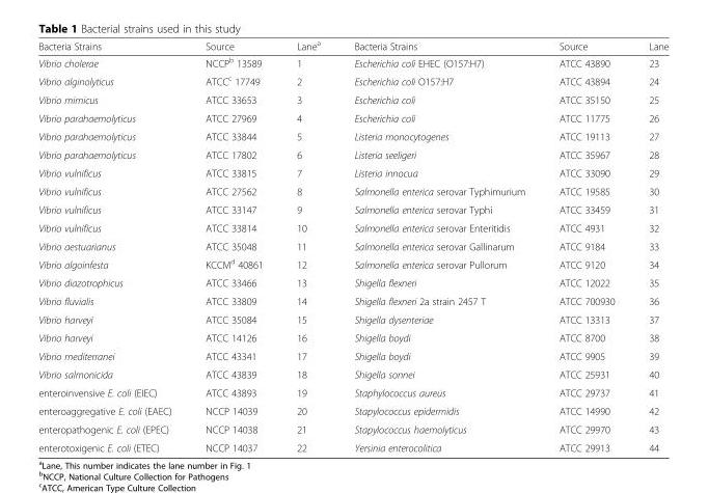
<table><thead><tr><td>Bacteria Strains</td><td>Source</td><td>Lane<sup>a</sup></td><td>Bacteria Strains</td><td>Source</td><td>Lane</td></tr></thead><tbody><tr><td>Vibrio cholerae</td><td>NCCP<sup>b</sup> 13589</td><td>1</td><td>Escherichia coli EHEC (O157:H7)</td><td>ATCC 43890</td><td>23</td></tr><tr><td>Vibrio alginolyticus</td><td>ATCC<sup>c</sup> 17749</td><td>2</td><td>Escherichia coli O157:H7</td><td>ATCC 43894</td><td>24</td></tr><tr><td>Vibrio mimicus</td><td>ATCC 33653</td><td>3</td><td>Escherichia coli</td><td>ATCC 35150</td><td>25</td></tr><tr><td>Vibrio parahaemolyticus</td><td>ATCC 27969</td><td>4</td><td>Escherichia coli</td><td>ATCC 11775</td><td>26</td></tr><tr><td>Vibrio parahaemolyticus</td><td>ATCC 33844</td><td>5</td><td>Listeria monocytogenes</td><td>ATCC 19113</td><td>27</td></tr><tr><td>Vibrio parahaemolyticus</td><td>ATCC 17802</td><td>6</td><td>Listeria seeligeri</td><td>ATCC 35967</td><td>28</td></tr><tr><td>Vibrio vulnificus</td><td>ATCC 33815</td><td>7</td><td>Listeria innocua</td><td>ATCC 33090</td><td>29</td></tr><tr><td>Vibrio vulnificus</td><td>ATCC 27562</td><td>8</td><td>Salmonella enterica serovar Typhimurium</td><td>ATCC 19585</td><td>30</td></tr><tr><td>Vibrio vulnificus</td><td>ATCC 33147</td><td>9</td><td>Salmonella enterica serovar Typhi</td><td>ATCC 33459</td><td>31</td></tr><tr><td>Vibrio vulnificus</td><td>ATCC 33814</td><td>10</td><td>Salmonella enterica serovar Enteritidis</td><td>ATCC 4931</td><td>32</td></tr><tr><td>Vibrio aestuarianus</td><td>ATCC 35048</td><td>11</td><td>Salmonella enterica serovar Gallinarum</td><td>ATCC 9184</td><td>33</td></tr><tr><td>Vibrio algoinfesta</td><td>KCCM<sup>d</sup> 40861</td><td>12</td><td>Salmonella enterica serovar Pullorum</td><td>ATCC 9120</td><td>34</td></tr><tr><td>Vibrio diazotrophicus</td><td>ATCC 33466</td><td>13</td><td>Shigella flexneri</td><td>ATCC 12022</td><td>35</td></tr><tr><td>Vibrio fluvialis</td><td>ATCC 33809</td><td>14</td><td>Shigella flexneri 2a strain 2457 T</td><td>ATCC 700930</td><td>36</td></tr><tr><td>Vibrio harveyi</td><td>ATCC 35084</td><td>15</td><td>Shigella dysenteriae</td><td>ATCC 13313</td><td>37</td></tr><tr><td>Vibrio harveyi</td><td>ATCC 14126</td><td>16</td><td>Shigella boydi</td><td>ATCC 8700</td><td>38</td></tr><tr><td>Vibrio mediterranei</td><td>ATCC 43341</td><td>17</td><td>Shigella boydi</td><td>ATCC 9905</td><td>39</td></tr><tr><td>Vibrio salmonicida</td><td>ATCC 43839</td><td>18</td><td>Shigella sonnei</td><td>ATCC 25931</td><td>40</td></tr><tr><td>enteroinvensive E. coli (EIEC)</td><td>ATCC 43893</td><td>19</td><td>Staphylococcus aureus</td><td>ATCC 29737</td><td>41</td></tr><tr><td>enteroaggregative E. coli (EAEC)</td><td>NCCP 14039</td><td>20</td><td>Stapylococcus epidermidis</td><td>ATCC 14990</td><td>42</td></tr><tr><td>enteropathogenic E. coli (EPEC)</td><td>NCCP 14038</td><td>21</td><td>Stapylococcus haemolyticus</td><td>ATCC 29970</td><td>43</td></tr><tr><td>enterotoxigenic E. coli (ETEC)</td><td>NCCP 14037</td><td>22</td><td>Yersinia enterocolitica</td><td>ATCC 29913</td><td>44</td></tr></tbody></table>